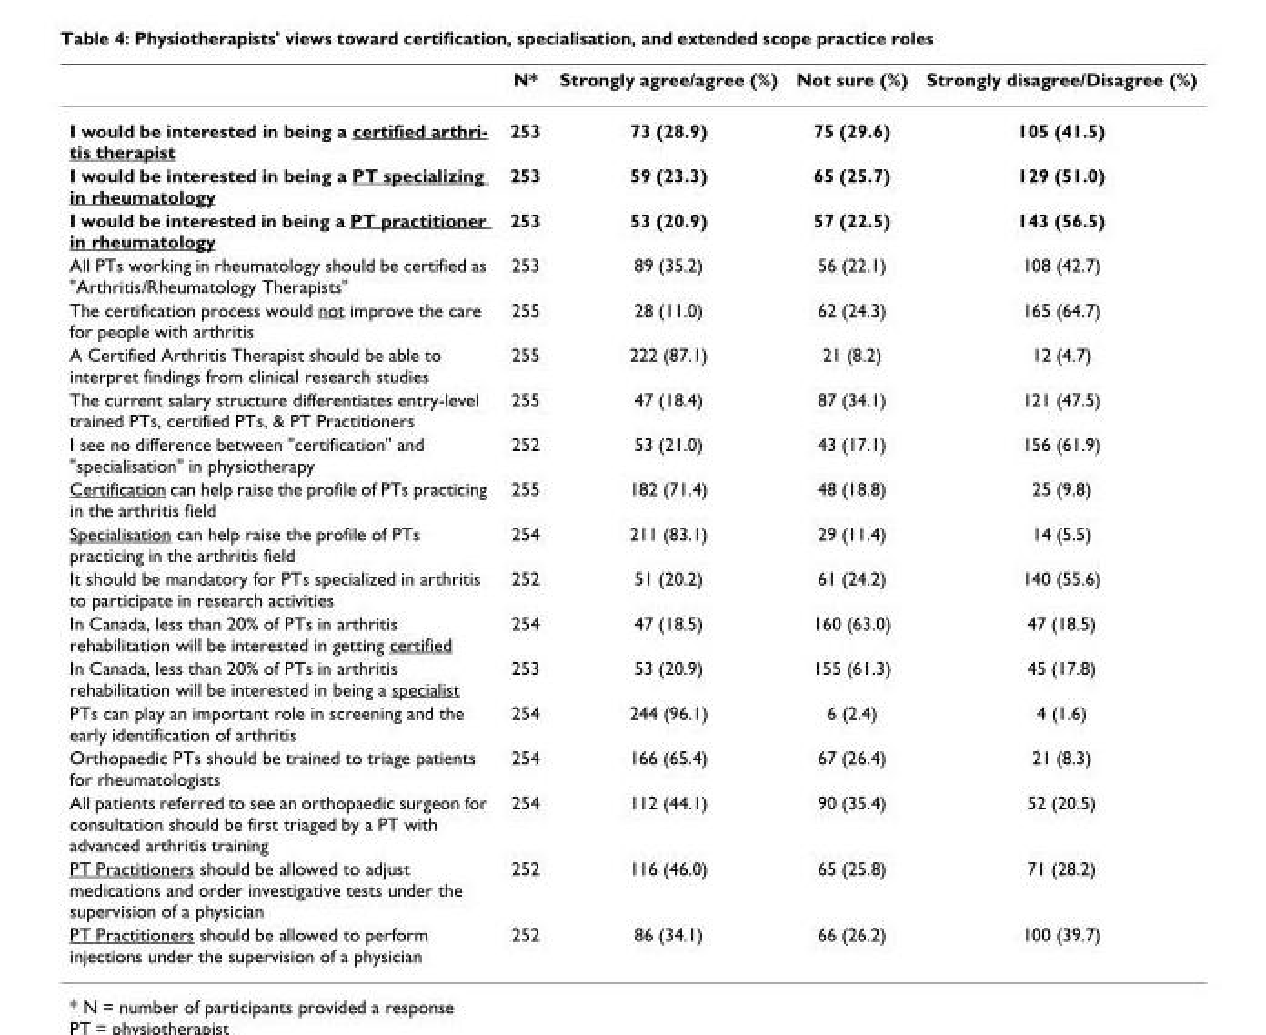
<table><thead><tr><td></td><td>N*</td><td>Strongly agree/agree (%)</td><td>Not sure (%)</td><td>Strongly disagree/Disagree (%)</td></tr></thead><tbody><tr><td>I would be interested in being a certified arthri- tis therapist</td><td>253</td><td>73 (28.9)</td><td>75 (29.6)</td><td>105 (41.5)</td></tr><tr><td>I would be interested in being a PT specializing in rheumatology</td><td>253</td><td>59 (23.3)</td><td>65 (25.7)</td><td>129 (51.0)</td></tr><tr><td>I would be interested in being a PT practitioner in rheumatology</td><td>253</td><td>53 (20.9)</td><td>57 (22.5)</td><td>143 (56.5)</td></tr><tr><td>All PTs working in rheumatology should be certified as &quot;Arthritis/Rheumatology Therapists&quot;</td><td>253</td><td>89 (35.2)</td><td>56 (22.1)</td><td>108 (42.7)</td></tr><tr><td>The certification process would not improve the care for people with arthritis</td><td>255</td><td>28 (11.0)</td><td>62 (24.3)</td><td>165 (64.7)</td></tr><tr><td>A Certified Arthritis Therapist should be able to interpret findings from clinical research studies</td><td>255</td><td>222 (87.1)</td><td>21 (8.2)</td><td>12 (4.7)</td></tr><tr><td>The current salary structure differentiates entry-level trained PTs, certified PTs, &amp; PT Practitioners</td><td>255</td><td>47 (18.4)</td><td>87 (34.1)</td><td>121 (47.5)</td></tr><tr><td>I see no difference between &quot;certification&quot; and &quot;specialisation&quot; in physiotherapy</td><td>252</td><td>53 (21.0)</td><td>43 (17.1)</td><td>156 (61.9)</td></tr><tr><td>Certification can help raise the profile of PTs practicing in the arthritis field</td><td>255</td><td>182 (71.4)</td><td>48 (18.8)</td><td>25 (9.8)</td></tr><tr><td>Specialisation can help raise the profile of PTs practicing in the arthritis field</td><td>254</td><td>211 (83.1)</td><td>29 (11.4)</td><td>14 (5.5)</td></tr><tr><td>It should be mandatory for PTs specialized in arthritis to participate in research activities</td><td>252</td><td>51 (20.2)</td><td>61 (24.2)</td><td>140 (55.6)</td></tr><tr><td>In Canada, less than 20% of PTs in arthritis rehabilitation will be interested in getting certified</td><td>254</td><td>47 (18.5)</td><td>160 (63.0)</td><td>47 (18.5)</td></tr><tr><td>In Canada, less than 20% of PTs in arthritis rehabilitation will be interested in being a specialist</td><td>253</td><td>53 (20.9)</td><td>155 (61.3)</td><td>45 (17.8)</td></tr><tr><td>PTs can play an important role in screening and the early identification of arthritis</td><td>254</td><td>244 (96.1)</td><td>6 (2.4)</td><td>4 (1.6)</td></tr><tr><td>Orthopaedic PTs should be trained to triage patients for rheumatologists</td><td>254</td><td>166 (65.4)</td><td>67 (26.4)</td><td>21 (8.3)</td></tr><tr><td>All patients referred to see an orthopaedic surgeon for consultation should be first triaged by a PT with advanced arthritis training</td><td>254</td><td>112 (44.1)</td><td>90 (35.4)</td><td>52 (20.5)</td></tr><tr><td>PT Practitioners should be allowed to adjust medications and order investigative tests under the supervision of a physician</td><td>252</td><td>116 (46.0)</td><td>65 (25.8)</td><td>71 (28.2)</td></tr><tr><td>PT Practitioners should be allowed to perform injections under the supervision of a physician</td><td>252</td><td>86 (34.1)</td><td>66 (26.2)</td><td>100 (39.7)</td></tr></tbody></table>